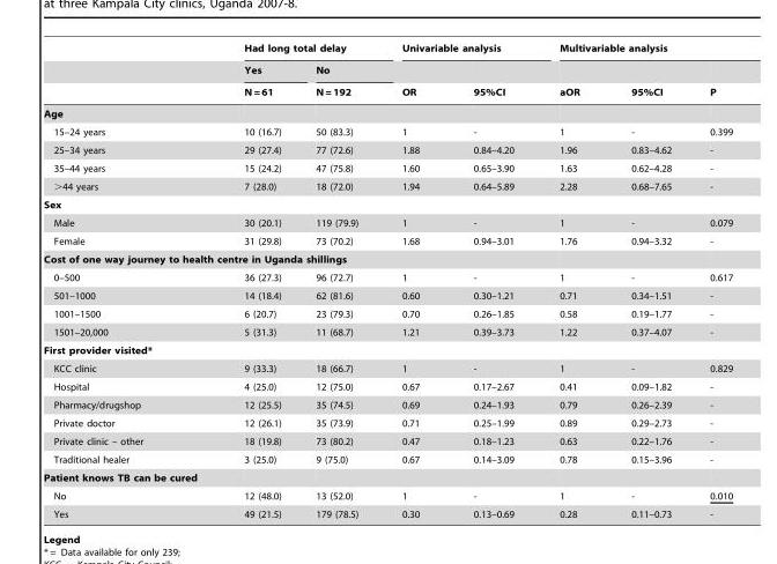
<table><thead><tr><td rowspan="3"></td><td colspan="2">Had long total delay</td><td colspan="2">Univariable analysis</td><td colspan="3">Multivariable analysis</td></tr><tr><td rowspan="2">Yes N = 61</td><td rowspan="2">No N = 192</td><td rowspan="2">OR</td><td rowspan="2">95%CI</td><td rowspan="2">aOR</td><td rowspan="2">95%CI</td><td rowspan="2">P</td></tr><tr></tr></thead><tbody><tr><td colspan="8">Age</td></tr><tr><td>15–24 years</td><td>10 (16.7)</td><td>50 (83.3)</td><td>1</td><td>-</td><td>1</td><td>-</td><td>0.399</td></tr><tr><td>25–34 years</td><td>29 (27.4)</td><td>77 (72.6)</td><td>1.88</td><td>0.84–4.20</td><td>1.96</td><td>0.83–4.62</td><td>-</td></tr><tr><td>35–44 years</td><td>15 (24.2)</td><td>47 (75.8)</td><td>1.60</td><td>0.65–3.90</td><td>1.63</td><td>0.62–4.28</td><td>-</td></tr><tr><td>&gt;44 years</td><td>7 (28.0)</td><td>18 (72.0)</td><td>1.94</td><td>0.64–5.89</td><td>2.28</td><td>0.68–7.65</td><td>-</td></tr><tr><td colspan="8">Sex</td></tr><tr><td>Male</td><td>30 (20.1)</td><td>119 (79.9)</td><td>1</td><td>-</td><td>1</td><td>-</td><td>0.079</td></tr><tr><td>Female</td><td>31 (29.8)</td><td>73 (70.2)</td><td>1.68</td><td>0.94–3.01</td><td>1.76</td><td>0.94–3.32</td><td>-</td></tr><tr><td colspan="8">Cost of one way journey to health centre in Uganda shillings</td></tr><tr><td>0–500</td><td>36 (27.3)</td><td>96 (72.7)</td><td>1</td><td>-</td><td>1</td><td>-</td><td>0.617</td></tr><tr><td>501–1000</td><td>14 (18.4)</td><td>62 (81.6)</td><td>0.60</td><td>0.30–1.21</td><td>0.71</td><td>0.34–1.51</td><td>-</td></tr><tr><td>1001–1500</td><td>6 (20.7)</td><td>23 (79.3)</td><td>0.70</td><td>0.26–1.85</td><td>0.58</td><td>0.19–1.77</td><td>-</td></tr><tr><td>1501–20,000</td><td>5 (31.3)</td><td>11 (68.7)</td><td>1.21</td><td>0.39–3.73</td><td>1.22</td><td>0.37–4.07</td><td>-</td></tr><tr><td colspan="8">First provider visited*</td></tr><tr><td>KCC clinic</td><td>9 (33.3)</td><td>18 (66.7)</td><td>1</td><td>-</td><td>1</td><td>-</td><td>0.829</td></tr><tr><td>Hospital</td><td>4 (25.0)</td><td>12 (75.0)</td><td>0.67</td><td>0.17–2.67</td><td>0.41</td><td>0.09–1.82</td><td>-</td></tr><tr><td>Pharmacy/drugshop</td><td>12 (25.5)</td><td>35 (74.5)</td><td>0.69</td><td>0.24–1.93</td><td>0.79</td><td>0.26–2.39</td><td>-</td></tr><tr><td>Private doctor</td><td>12 (26.1)</td><td>35 (73.9)</td><td>0.71</td><td>0.25–1.99</td><td>0.89</td><td>0.29–2.73</td><td>-</td></tr><tr><td>Private clinic – other</td><td>18 (19.8)</td><td>73 (80.2)</td><td>0.47</td><td>0.18–1.23</td><td>0.63</td><td>0.22–1.76</td><td>-</td></tr><tr><td>Traditional healer</td><td>3 (25.0)</td><td>9 (75.0)</td><td>0.67</td><td>0.14–3.09</td><td>0.78</td><td>0.15–3.96</td><td>-</td></tr><tr><td colspan="8">Patient knows TB can be cured</td></tr><tr><td>No</td><td>12 (48.0)</td><td>13 (52.0)</td><td>1</td><td>-</td><td>1</td><td>-</td><td>0.010</td></tr><tr><td>Yes</td><td>49 (21.5)</td><td>179 (78.5)</td><td>0.30</td><td>0.13–0.69</td><td>0.28</td><td>0.11–0.73</td><td>-</td></tr></tbody></table>